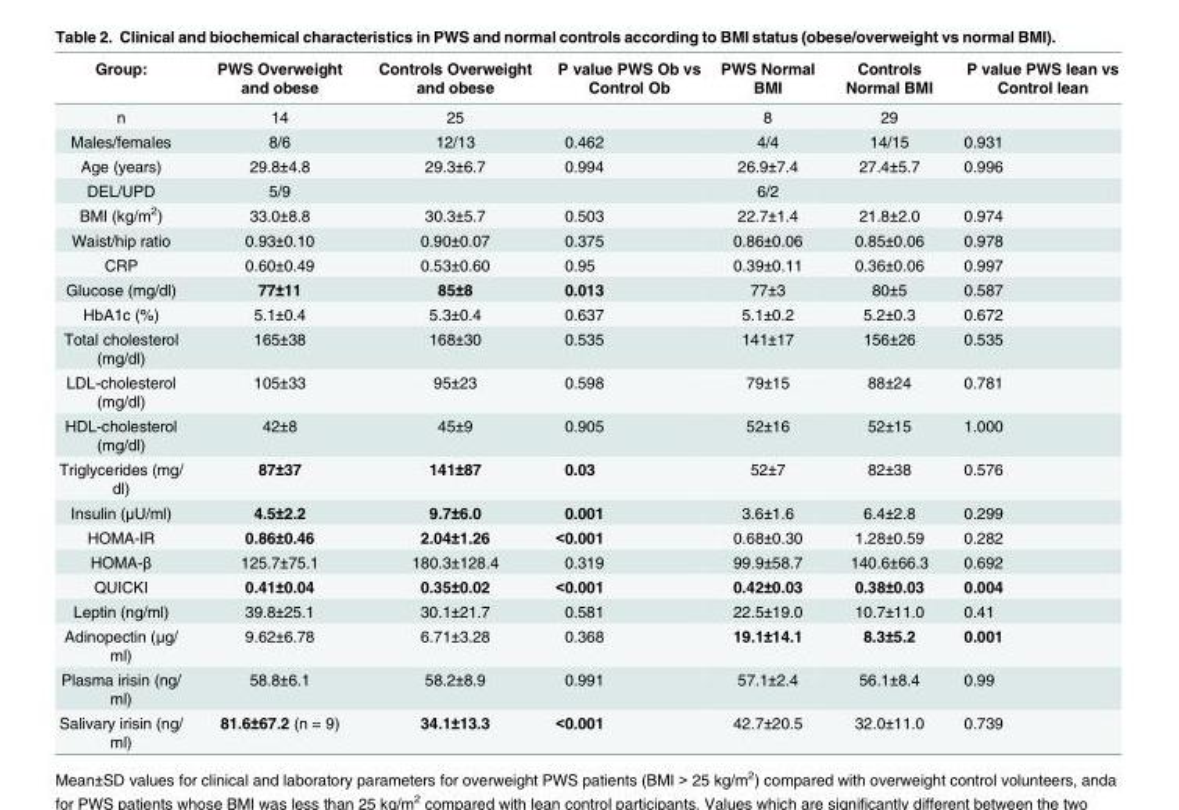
<table><thead><tr><td>Group:</td><td>PWS Overweight and obese</td><td>Controls Overweight and obese</td><td>P value PWS Ob vs Control Ob</td><td>PWS Normal BMI</td><td>Controls Normal BMI</td><td>P value PWS lean vs Control lean</td></tr></thead><tbody><tr><td>n</td><td>14</td><td>25</td><td></td><td>8</td><td>29</td><td></td></tr><tr><td>Males/females</td><td>8/6</td><td>12/13</td><td>0.462</td><td>4/4</td><td>14/15</td><td>0.931</td></tr><tr><td>Age (years)</td><td>29.8±4.8</td><td>29.3±6.7</td><td>0.994</td><td>26.9±7.4</td><td>27.4±5.7</td><td>0.996</td></tr><tr><td>DEL/UPD</td><td>5/9</td><td></td><td></td><td>6/2</td><td></td><td></td></tr><tr><td>BMI (kg/m<sup>2</sup>)</td><td>33.0±8.8</td><td>30.3±5.7</td><td>0.503</td><td>22.7±1.4</td><td>21.8±2.0</td><td>0.974</td></tr><tr><td>Waist/hip ratio</td><td>0.93±0.10</td><td>0.90±0.07</td><td>0.375</td><td>0.86±0.06</td><td>0.85±0.06</td><td>0.978</td></tr><tr><td>CRP</td><td>0.60±0.49</td><td>0.53±0.60</td><td>0.95</td><td>0.39±0.11</td><td>0.36±0.06</td><td>0.997</td></tr><tr><td>Glucose (mg/dl)</td><td>77±11</td><td>85±8</td><td>0.013</td><td>77±3</td><td>80±5</td><td>0.587</td></tr><tr><td>HbA1c (%)</td><td>5.1±0.4</td><td>5.3±0.4</td><td>0.637</td><td>5.1±0.2</td><td>5.2±0.3</td><td>0.672</td></tr><tr><td>Total cholesterol (mg/dl)</td><td>165±38</td><td>168±30</td><td>0.535</td><td>141±17</td><td>156±26</td><td>0.535</td></tr><tr><td>LDL-cholesterol (mg/dl)</td><td>105±33</td><td>95±23</td><td>0.598</td><td>79±15</td><td>88±24</td><td>0.781</td></tr><tr><td>HDL-cholesterol (mg/dl)</td><td>42±8</td><td>45±9</td><td>0.905</td><td>52±16</td><td>52±15</td><td>1.000</td></tr><tr><td>Triglycerides (mg/ dl)</td><td>87±37</td><td>141±87</td><td>0.03</td><td>52±7</td><td>82±38</td><td>0.576</td></tr><tr><td>Insulin (μU/ml)</td><td>4.5±2.2</td><td>9.7±6.0</td><td>0.001</td><td>3.6±1.6</td><td>6.4±2.8</td><td>0.299</td></tr><tr><td>HOMA-IR</td><td>0.86±0.46</td><td>2.04±1.26</td><td>&lt;0.001</td><td>0.68±0.30</td><td>1.28±0.59</td><td>0.282</td></tr><tr><td>HOMA-β</td><td>125.7±75.1</td><td>180.3±128.4</td><td>0.319</td><td>99.9±58.7</td><td>140.6±66.3</td><td>0.692</td></tr><tr><td>QUICKI</td><td>0.41±0.04</td><td>0.35±0.02</td><td>&lt;0.001</td><td>0.42±0.03</td><td>0.38±0.03</td><td>0.004</td></tr><tr><td>Leptin (ng/ml)</td><td>39.8±25.1</td><td>30.1±21.7</td><td>0.581</td><td>22.5±19.0</td><td>10.7±11.0</td><td>0.41</td></tr><tr><td>Adinopectin (μg/ ml)</td><td>9.62±6.78</td><td>6.71±3.28</td><td>0.368</td><td>19.1±14.1</td><td>8.3±5.2</td><td>0.001</td></tr><tr><td>Plasma irisin (ng/ ml)</td><td>58.8±6.1</td><td>58.2±8.9</td><td>0.991</td><td>57.1±2.4</td><td>56.1±8.4</td><td>0.99</td></tr><tr><td>Salivary irisin (ng/ ml)</td><td>81.6±67.2 (n = 9)</td><td>34.1±13.3</td><td>&lt;0.001</td><td>42.7±20.5</td><td>32.0±11.0</td><td>0.739</td></tr></tbody></table>